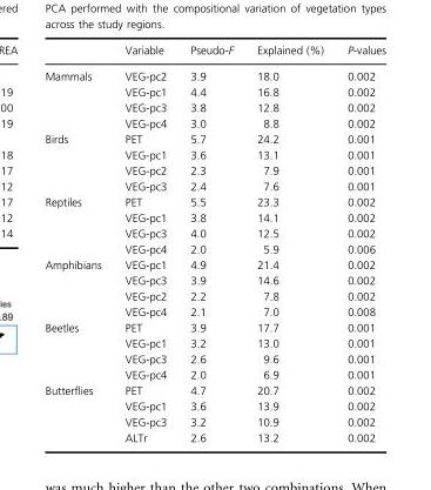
<table><thead><tr><td></td><td>Variable</td><td>Pseudo-F</td><td>Explained (%)</td><td>P-values</td></tr></thead><tbody><tr><td rowspan="4">Mammals</td><td>VEG-pc2</td><td>3.9</td><td>18.0</td><td>0.002</td></tr><tr><td>VEG-pc1</td><td>4.4</td><td>16.8</td><td>0.002</td></tr><tr><td>VEG-pc3</td><td>3.8</td><td>12.8</td><td>0.002</td></tr><tr><td>VEG-pc4</td><td>3.0</td><td>8.8</td><td>0.002</td></tr><tr><td rowspan="4">Birds</td><td>PET</td><td>5.7</td><td>24.2</td><td>0.001</td></tr><tr><td>VEG-pc1</td><td>3.6</td><td>13.1</td><td>0.001</td></tr><tr><td>VEG-pc2</td><td>2.3</td><td>7.9</td><td>0.001</td></tr><tr><td>VEG-pc3</td><td>2.4</td><td>7.6</td><td>0.001</td></tr><tr><td rowspan="4">Reptiles</td><td>PET</td><td>5.5</td><td>23.3</td><td>0.002</td></tr><tr><td>VEG-pc1</td><td>3.8</td><td>14.1</td><td>0.002</td></tr><tr><td>VEG-pc3</td><td>4.0</td><td>12.5</td><td>0.002</td></tr><tr><td>VEG-pc4</td><td>2.0</td><td>5.9</td><td>0.006</td></tr><tr><td rowspan="4">Amphibians</td><td>VEG-pc1</td><td>4.9</td><td>21.4</td><td>0.002</td></tr><tr><td>VEG-pc3</td><td>3.9</td><td>14.6</td><td>0.002</td></tr><tr><td>VEG-pc2</td><td>2.2</td><td>7.8</td><td>0.002</td></tr><tr><td>VEG-pc4</td><td>2.1</td><td>7.0</td><td>0.008</td></tr><tr><td rowspan="4">Beetles</td><td>PET</td><td>3.9</td><td>17.7</td><td>0.001</td></tr><tr><td>VEG-pc1</td><td>3.2</td><td>13.0</td><td>0.001</td></tr><tr><td>VEG-pc3</td><td>2.6</td><td>9.6</td><td>0.001</td></tr><tr><td>VEG-pc4</td><td>2.0</td><td>6.9</td><td>0.001</td></tr><tr><td rowspan="4">Butterflies</td><td>PET</td><td>4.7</td><td>20.7</td><td>0.002</td></tr><tr><td>VEG-pc1</td><td>3.6</td><td>13.9</td><td>0.002</td></tr><tr><td>VEG-pc3</td><td>3.2</td><td>10.9</td><td>0.002</td></tr><tr><td>ALTr</td><td>2.6</td><td>13.2</td><td>0.002</td></tr></tbody></table>